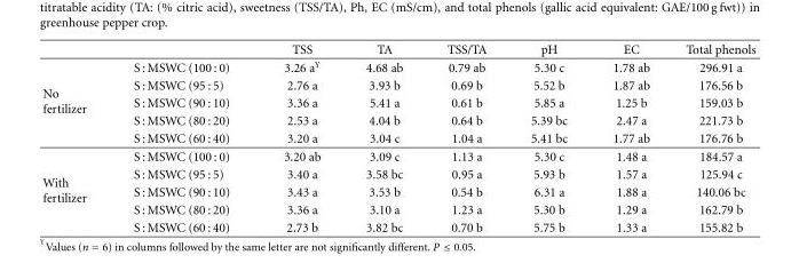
<table><thead><tr><td></td><td></td><td>TSS</td><td>TA</td><td>TSS/TA</td><td>pH</td><td>EC</td><td>Total phenols</td></tr></thead><tbody><tr><td rowspan="5">No fertilizer</td><td>S : MSWC (100 : 0)</td><td>3.26 a<sup>Y</sup></td><td>4.68 ab</td><td>0.79 ab</td><td>5.30 c</td><td>1.78 ab</td><td>296.91 a</td></tr><tr><td>S : MSWC (95 : 5)</td><td>2.76 a</td><td>3.93 b</td><td>0.69 b</td><td>5.52 b</td><td>1.87 ab</td><td>176.56 b</td></tr><tr><td>S : MSWC (90 : 10)</td><td>3.36 a</td><td>5.41 a</td><td>0.61 b</td><td>5.85 a</td><td>1.25 b</td><td>159.03 b</td></tr><tr><td>S : MSWC (80 : 20)</td><td>2.53 a</td><td>4.04 b</td><td>0.64 b</td><td>5.39 bc</td><td>2.47 a</td><td>221.73 b</td></tr><tr><td>S : MSWC (60 : 40)</td><td>3.20 a</td><td>3.04 c</td><td>1.04 a</td><td>5.41 bc</td><td>1.77 ab</td><td>176.76 b</td></tr><tr><td rowspan="5">With fertilizer</td><td>S : MSWC (100 : 0)</td><td>3.20 ab</td><td>3.09 c</td><td>1.13 a</td><td>5.30 c</td><td>1.48 a</td><td>184.57 a</td></tr><tr><td>S : MSWC (95 : 5)</td><td>3.40 a</td><td>3.58 bc</td><td>0.95 a</td><td>5.93 b</td><td>1.57 a</td><td>125.94 c</td></tr><tr><td>S : MSWC (90 : 10)</td><td>3.43 a</td><td>3.53 b</td><td>0.54 b</td><td>6.31 a</td><td>1.88 a</td><td>140.06 bc</td></tr><tr><td>S : MSWC (80 : 20)</td><td>3.36 a</td><td>3.10 a</td><td>1.23 a</td><td>5.30 b</td><td>1.29 a</td><td>162.79 b</td></tr><tr><td>S : MSWC (60 : 40)</td><td>2.73 b</td><td>3.82 bc</td><td>0.70 b</td><td>5.75 b</td><td>1.33 a</td><td>155.82 b</td></tr></tbody></table>